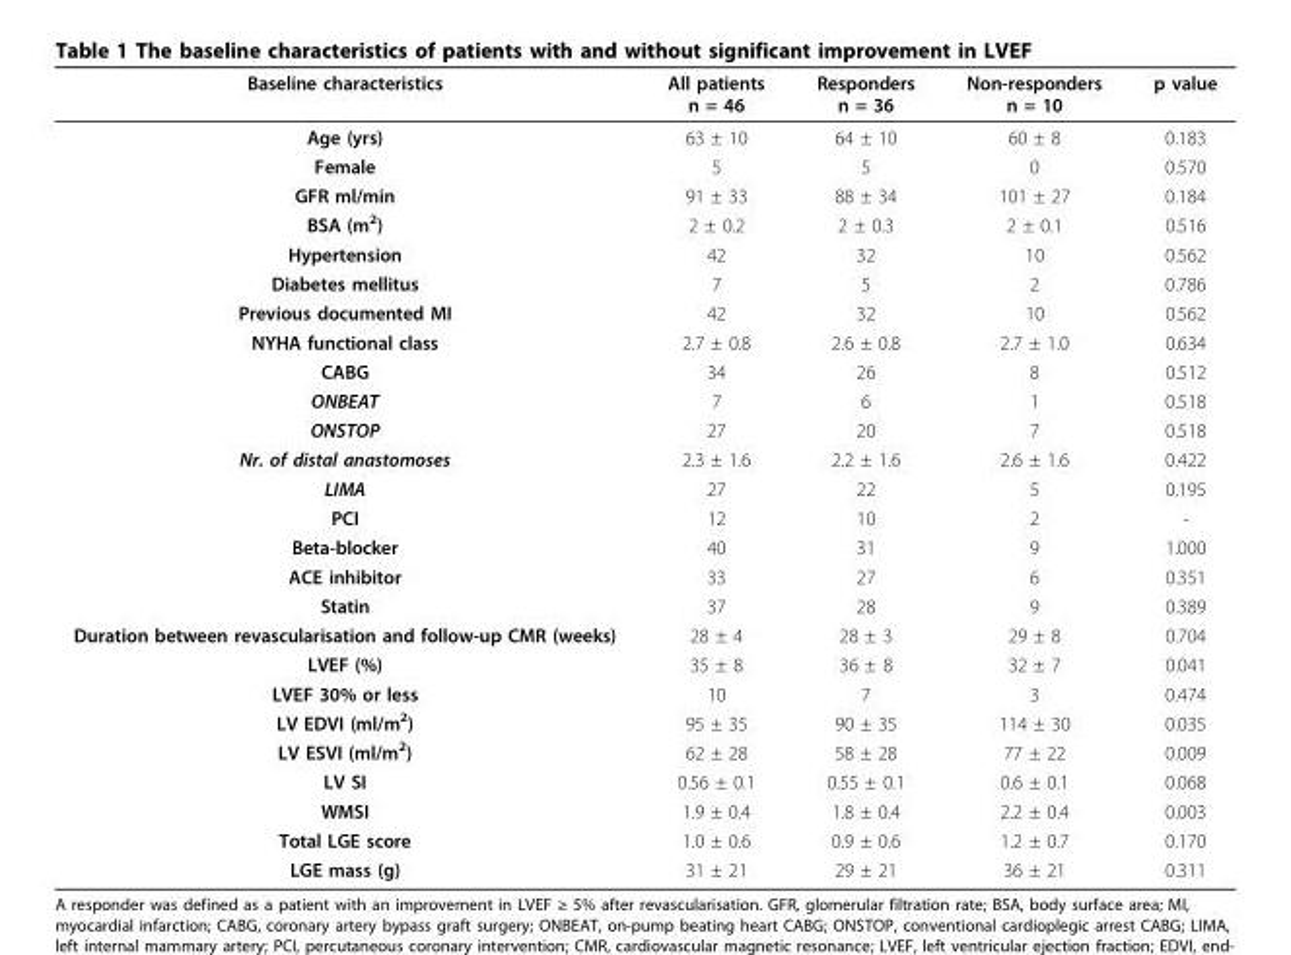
<table><thead><tr><td>Baseline characteristics</td><td>All patients n = 46</td><td>Responders n = 36</td><td>Non-responders n = 10</td><td>p value</td></tr></thead><tbody><tr><td>Age (yrs)</td><td>63 ± 10</td><td>64 ± 10</td><td>60 ± 8</td><td>0.183</td></tr><tr><td>Female</td><td>5</td><td>5</td><td>0</td><td>0.570</td></tr><tr><td>GFR ml/min</td><td>91 ± 33</td><td>88 ± 34</td><td>101 ± 27</td><td>0.184</td></tr><tr><td>BSA (m<sup>2</sup>)</td><td>2 ± 0.2</td><td>2 ± 0.3</td><td>2 ± 0.1</td><td>0.516</td></tr><tr><td>Hypertension</td><td>42</td><td>32</td><td>10</td><td>0.562</td></tr><tr><td>Diabetes mellitus</td><td>7</td><td>5</td><td>2</td><td>0.786</td></tr><tr><td>Previous documented MI</td><td>42</td><td>32</td><td>10</td><td>0.562</td></tr><tr><td>NYHA functional class</td><td>2.7 ± 0.8</td><td>2.6 ± 0.8</td><td>2.7 ± 1.0</td><td>0.634</td></tr><tr><td>CABG</td><td>34</td><td>26</td><td>8</td><td>0.512</td></tr><tr><td>ONBEAT</td><td>7</td><td>6</td><td>1</td><td>0.518</td></tr><tr><td>ONSTOP</td><td>27</td><td>20</td><td>7</td><td>0.518</td></tr><tr><td>Nr. of distal anastomoses</td><td>2.3 ± 1.6</td><td>2.2 ± 1.6</td><td>2.6 ± 1.6</td><td>0.422</td></tr><tr><td>LIMA</td><td>27</td><td>22</td><td>5</td><td>0.195</td></tr><tr><td>PCI</td><td>12</td><td>10</td><td>2</td><td>-</td></tr><tr><td>Beta-blocker</td><td>40</td><td>31</td><td>9</td><td>1.000</td></tr><tr><td>ACE inhibitor</td><td>33</td><td>27</td><td>6</td><td>0.351</td></tr><tr><td>Statin</td><td>37</td><td>28</td><td>9</td><td>0.389</td></tr><tr><td>Duration between revascularisation and follow-up CMR (weeks)</td><td>28 ± 4</td><td>28 ± 3</td><td>29 ± 8</td><td>0.704</td></tr><tr><td>LVEF (%)</td><td>35 ± 8</td><td>36 ± 8</td><td>32 ± 7</td><td>0.041</td></tr><tr><td>LVEF 30% or less</td><td>10</td><td>7</td><td>3</td><td>0.474</td></tr><tr><td>LV EDVI (ml/m<sup>2</sup>)</td><td>95 ± 35</td><td>90 ± 35</td><td>114 ± 30</td><td>0.035</td></tr><tr><td>LV ESVI (ml/m<sup>2</sup>)</td><td>62 ± 28</td><td>58 ± 28</td><td>77 ± 22</td><td>0.009</td></tr><tr><td>LV SI</td><td>0.56 ± 0.1</td><td>0.55 ± 0.1</td><td>0.6 ± 0.1</td><td>0.068</td></tr><tr><td>WMSI</td><td>1.9 ± 0.4</td><td>1.8 ± 0.4</td><td>2.2 ± 0.4</td><td>0.003</td></tr><tr><td>Total LGE score</td><td>1.0 ± 0.6</td><td>0.9 ± 0.6</td><td>1.2 ± 0.7</td><td>0.170</td></tr><tr><td>LGE mass (g)</td><td>31 ± 21</td><td>29 ± 21</td><td>36 ± 21</td><td>0.311</td></tr></tbody></table>